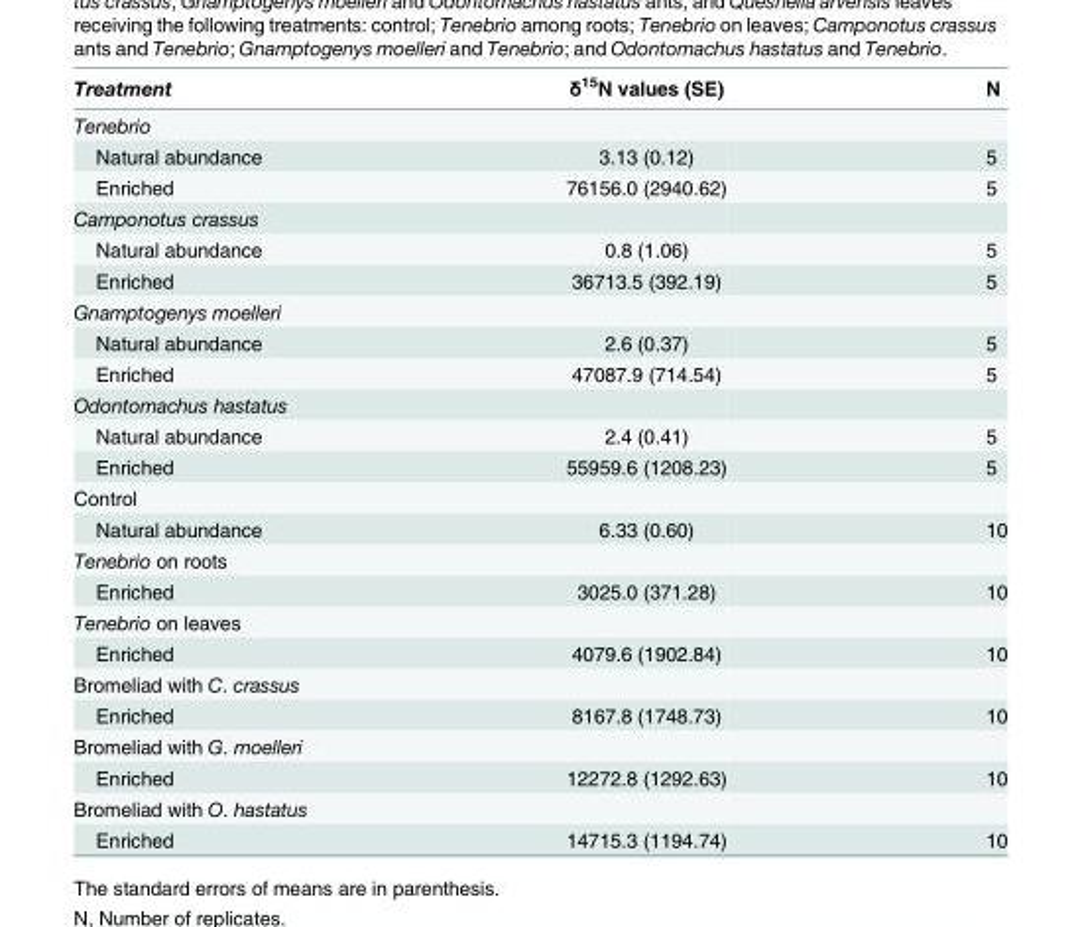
<table><thead><tr><td>Treatment</td><td>δ<sup>15</sup>N values (SE)</td><td>N</td></tr></thead><tbody><tr><td colspan="3">Tenebrio</td></tr><tr><td>Natural abundance</td><td>3.13 (0.12)</td><td>5</td></tr><tr><td>Enriched</td><td>76156.0 (2940.62)</td><td>5</td></tr><tr><td colspan="3">Camponotus crassus</td></tr><tr><td>Natural abundance</td><td>0.8 (1.06)</td><td>5</td></tr><tr><td>Enriched</td><td>36713.5 (392.19)</td><td>5</td></tr><tr><td colspan="3">Gnamptogenys moelleri</td></tr><tr><td>Natural abundance</td><td>2.6 (0.37)</td><td>5</td></tr><tr><td>Enriched</td><td>47087.9 (714.54)</td><td>5</td></tr><tr><td colspan="3">Odontomachus hastatus</td></tr><tr><td>Natural abundance</td><td>2.4 (0.41)</td><td>5</td></tr><tr><td>Enriched</td><td>55959.6 (1208.23)</td><td>5</td></tr><tr><td colspan="3">Control</td></tr><tr><td>Natural abundance</td><td>6.33 (0.60)</td><td>10</td></tr><tr><td colspan="3">Tenebrio on roots</td></tr><tr><td>Enriched</td><td>3025.0 (371.28)</td><td>10</td></tr><tr><td colspan="3">Tenebrio on leaves</td></tr><tr><td>Enriched</td><td>4079.6 (1902.84)</td><td>10</td></tr><tr><td colspan="3">Bromeliad with C. crassus</td></tr><tr><td>Enriched</td><td>8167.8 (1748.73)</td><td>10</td></tr><tr><td colspan="3">Bromeliad with G. moelleri</td></tr><tr><td>Enriched</td><td>12272.8 (1292.63)</td><td>10</td></tr><tr><td colspan="3">Bromeliad with O. hastatus</td></tr><tr><td>Enriched</td><td>14715.3 (1194.74)</td><td>10</td></tr></tbody></table>